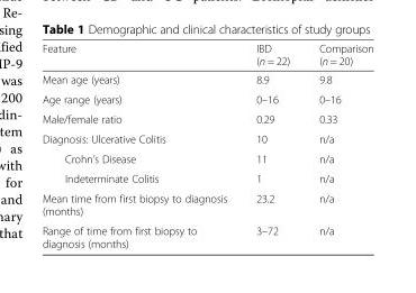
<table><thead><tr><td>Feature</td><td>IBD (n = 22)</td><td>Comparison (n = 20)</td></tr></thead><tbody><tr><td>Mean age (years)</td><td>8.9</td><td>9.8</td></tr><tr><td>Age range (years)</td><td>0–16</td><td>0–16</td></tr><tr><td>Male/female ratio</td><td>0.29</td><td>0.33</td></tr><tr><td>Diagnosis: Ulcerative Colitis</td><td>10</td><td>n/a</td></tr><tr><td>Crohn’s Disease</td><td>11</td><td>n/a</td></tr><tr><td>Indeterminate Colitis</td><td>1</td><td>n/a</td></tr><tr><td>Mean time from first biopsy to diagnosis (months)</td><td>23.2</td><td>n/a</td></tr><tr><td>Range of time from first biopsy to diagnosis (months)</td><td>3–72</td><td>n/a</td></tr></tbody></table>